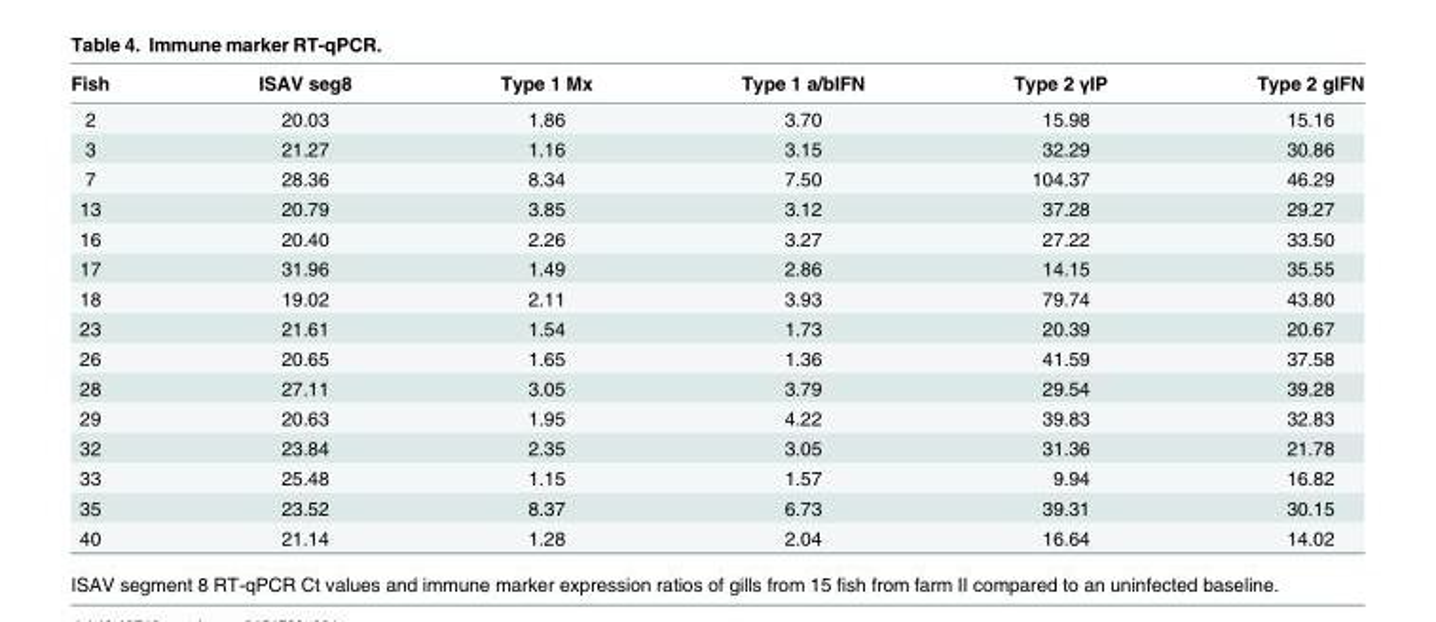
<table><thead><tr><td>Fish</td><td>ISAV seg8</td><td>Type 1 Mx</td><td>Type 1 a/bIFN</td><td>Type 2 γIP</td><td>Type 2 gIFN</td></tr></thead><tbody><tr><td>2</td><td>20.03</td><td>1.86</td><td>3.70</td><td>15.98</td><td>15.16</td></tr><tr><td>3</td><td>21.27</td><td>1.16</td><td>3.15</td><td>32.29</td><td>30.86</td></tr><tr><td>7</td><td>28.36</td><td>8.34</td><td>7.50</td><td>104.37</td><td>46.29</td></tr><tr><td>13</td><td>20.79</td><td>3.85</td><td>3.12</td><td>37.28</td><td>29.27</td></tr><tr><td>16</td><td>20.40</td><td>2.26</td><td>3.27</td><td>27.22</td><td>33.50</td></tr><tr><td>17</td><td>31.96</td><td>1.49</td><td>2.86</td><td>14.15</td><td>35.55</td></tr><tr><td>18</td><td>19.02</td><td>2.11</td><td>3.93</td><td>79.74</td><td>43.80</td></tr><tr><td>23</td><td>21.61</td><td>1.54</td><td>1.73</td><td>20.39</td><td>20.67</td></tr><tr><td>26</td><td>20.65</td><td>1.65</td><td>1.36</td><td>41.59</td><td>37.58</td></tr><tr><td>28</td><td>27.11</td><td>3.05</td><td>3.79</td><td>29.54</td><td>39.28</td></tr><tr><td>29</td><td>20.63</td><td>1.95</td><td>4.22</td><td>39.83</td><td>32.83</td></tr><tr><td>32</td><td>23.84</td><td>2.35</td><td>3.05</td><td>31.36</td><td>21.78</td></tr><tr><td>33</td><td>25.48</td><td>1.15</td><td>1.57</td><td>9.94</td><td>16.82</td></tr><tr><td>35</td><td>23.52</td><td>8.37</td><td>6.73</td><td>39.31</td><td>30.15</td></tr><tr><td>40</td><td>21.14</td><td>1.28</td><td>2.04</td><td>16.64</td><td>14.02</td></tr></tbody></table>